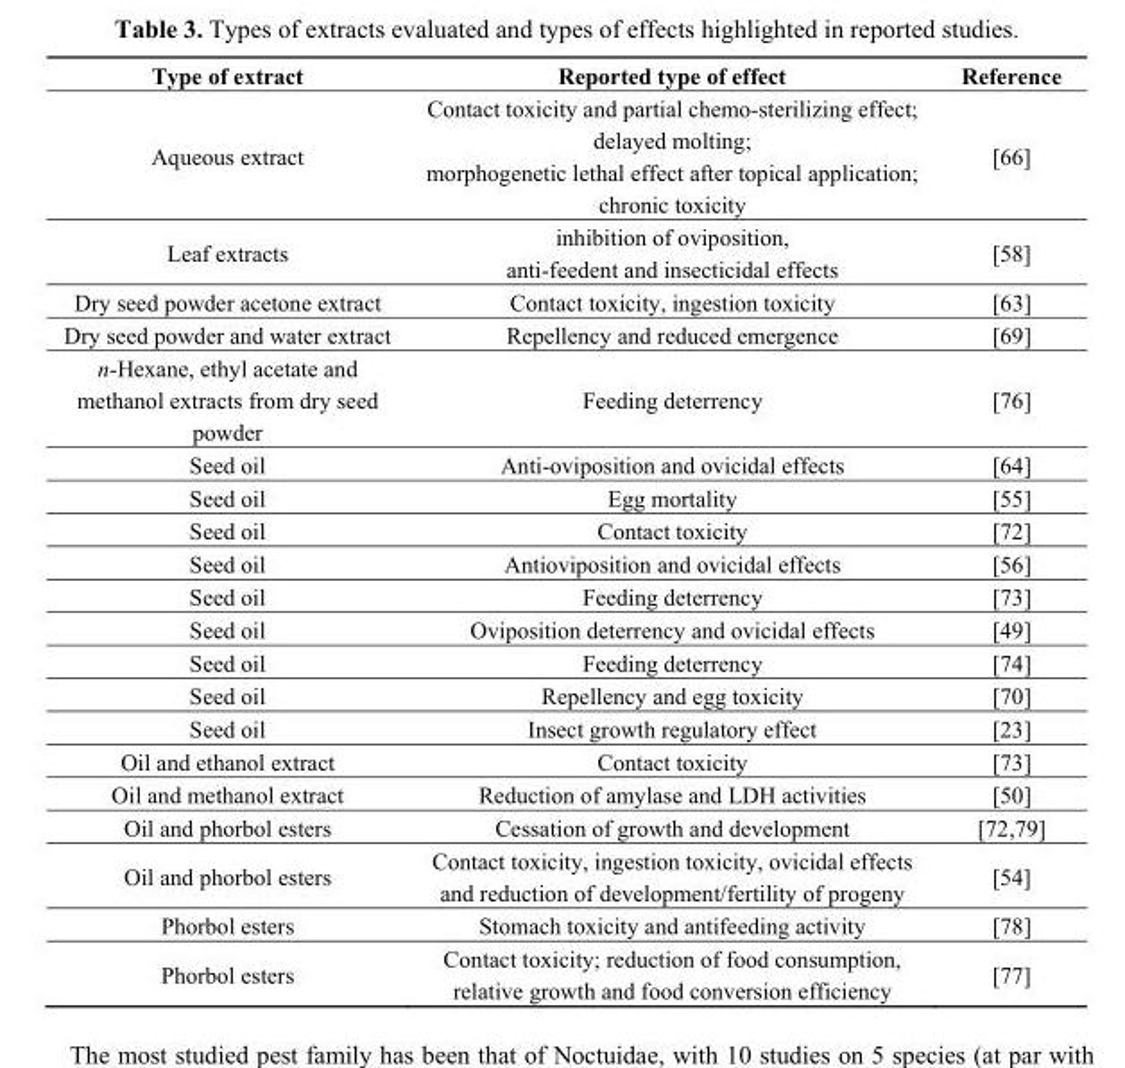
<table><thead><tr><td>Type of extract</td><td>Reported type of effect</td><td>Reference</td></tr></thead><tbody><tr><td>Aqueous extract</td><td>Contact toxicity and partial chemo-sterilizing effect; delayed molting; morphogenetic lethal effect after topical application; chronic toxicity</td><td>[66]</td></tr><tr><td>Leaf extracts</td><td>inhibition of oviposition, anti-feedent and insecticidal effects</td><td>[58]</td></tr><tr><td>Dry seed powder acetone extract</td><td>Contact toxicity, ingestion toxicity</td><td>[63]</td></tr><tr><td>Dry seed powder and water extract</td><td>Repellency and reduced emergence</td><td>[69]</td></tr><tr><td>n-Hexane, ethyl acetate and methanol extracts from dry seed powder</td><td>Feeding deterrency</td><td>[76]</td></tr><tr><td>Seed oil</td><td>Anti-oviposition and ovicidal effects</td><td>[64]</td></tr><tr><td>Seed oil</td><td>Egg mortality</td><td>[55]</td></tr><tr><td>Seed oil</td><td>Contact toxicity</td><td>[72]</td></tr><tr><td>Seed oil</td><td>Antioviposition and ovicidal effects</td><td>[56]</td></tr><tr><td>Seed oil</td><td>Feeding deterrency</td><td>[73]</td></tr><tr><td>Seed oil</td><td>Oviposition deterrency and ovicidal effects</td><td>[49]</td></tr><tr><td>Seed oil</td><td>Feeding deterrency</td><td>[74]</td></tr><tr><td>Seed oil</td><td>Repellency and egg toxicity</td><td>[70]</td></tr><tr><td>Seed oil</td><td>Insect growth regulatory effect</td><td>[23]</td></tr><tr><td>Oil and ethanol extract</td><td>Contact toxicity</td><td>[73]</td></tr><tr><td>Oil and methanol extract</td><td>Reduction of amylase and LDH activities</td><td>[50]</td></tr><tr><td>Oil and phorbol esters</td><td>Cessation of growth and development</td><td>[72,79]</td></tr><tr><td>Oil and phorbol esters</td><td>Contact toxicity, ingestion toxicity, ovicidal effects and reduction of development/fertility of progeny</td><td>[54]</td></tr><tr><td>Phorbol esters</td><td>Stomach toxicity and antifeeding activity</td><td>[78]</td></tr><tr><td>Phorbol esters</td><td>Contact toxicity; reduction of food consumption, relative growth and food conversion efficiency</td><td>[77]</td></tr></tbody></table>